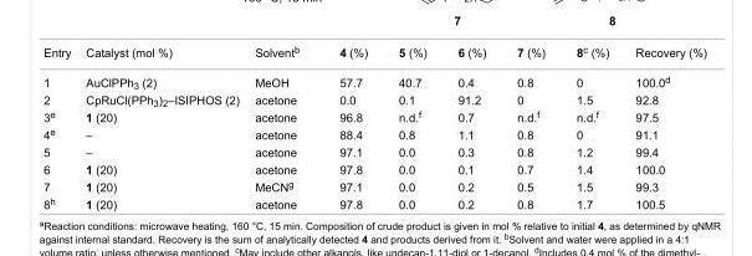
<table><tbody><tr><td>Entry</td><td>Catalyst (mol %)</td><td>Solvent<sup>b</sup></td><td>4 (%)</td><td>5 (%)</td><td>6 (%)</td><td>7 (%)</td><td>8<sup>c</sup> (%)</td><td>Recovery (%)</td></tr><tr><td>1</td><td>AuClPPh<sub>3</sub> (2)</td><td>MeOH</td><td>57.7</td><td>40.7</td><td>0.4</td><td>0.8</td><td>0</td><td>100.0<sup>d</sup></td></tr><tr><td>2</td><td>CpRuCl(PPh<sub>3</sub>)<sub>2</sub>–ISIPHOS (2)</td><td>acetone</td><td>0.0</td><td>0.1</td><td>91.2</td><td>0</td><td>1.5</td><td>92.8</td></tr><tr><td>3<sup>e</sup></td><td>1 (20)</td><td>acetone</td><td>96.8</td><td>n.d.<sup>f</sup></td><td>0.7</td><td>n.d.<sup>f</sup></td><td>n.d.<sup>f</sup></td><td>97.5</td></tr><tr><td>4<sup>e</sup></td><td>–</td><td>acetone</td><td>88.4</td><td>0.8</td><td>1.1</td><td>0.8</td><td>0</td><td>91.1</td></tr><tr><td>5</td><td>–</td><td>acetone</td><td>97.1</td><td>0.0</td><td>0.3</td><td>0.8</td><td>1.2</td><td>99.4</td></tr><tr><td>6</td><td>1 (20)</td><td>acetone</td><td>97.8</td><td>0.0</td><td>0.1</td><td>0.7</td><td>1.4</td><td>100.0</td></tr><tr><td>7</td><td>1 (20)</td><td>MeCN<sup>g</sup></td><td>97.1</td><td>0.0</td><td>0.2</td><td>0.5</td><td>1.5</td><td>99.3</td></tr><tr><td>8<sup>h</sup></td><td>1 (20)</td><td>acetone</td><td>97.8</td><td>0.0</td><td>0.2</td><td>0.8</td><td>1.7</td><td>100.5</td></tr></tbody></table>